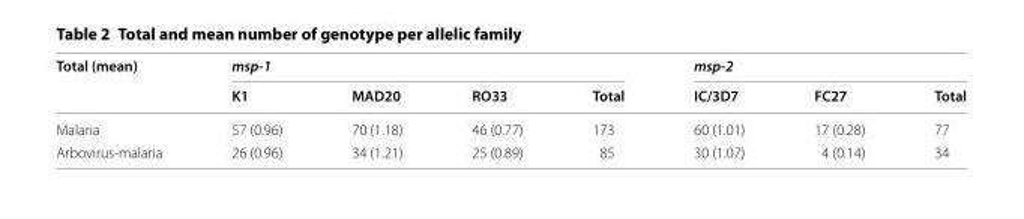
<table><thead><tr><td rowspan="2">Total (mean)</td><td colspan="4">msp‑1</td><td colspan="3">msp‑2</td></tr><tr><td>K1</td><td>MAD20</td><td>RO33</td><td>Total</td><td>IC/3D7</td><td>FC27</td><td>Total</td></tr></thead><tbody><tr><td>Malaria</td><td>57 (0.96)</td><td>70 (1.18)</td><td>46 (0.77)</td><td>173</td><td>60 (1.01)</td><td>17 (0.28)</td><td>77</td></tr><tr><td>Arbovirus‑malaria</td><td>26 (0.96)</td><td>34 (1.21)</td><td>25 (0.89)</td><td>85</td><td>30 (1.07)</td><td>4 (0.14)</td><td>34</td></tr></tbody></table>